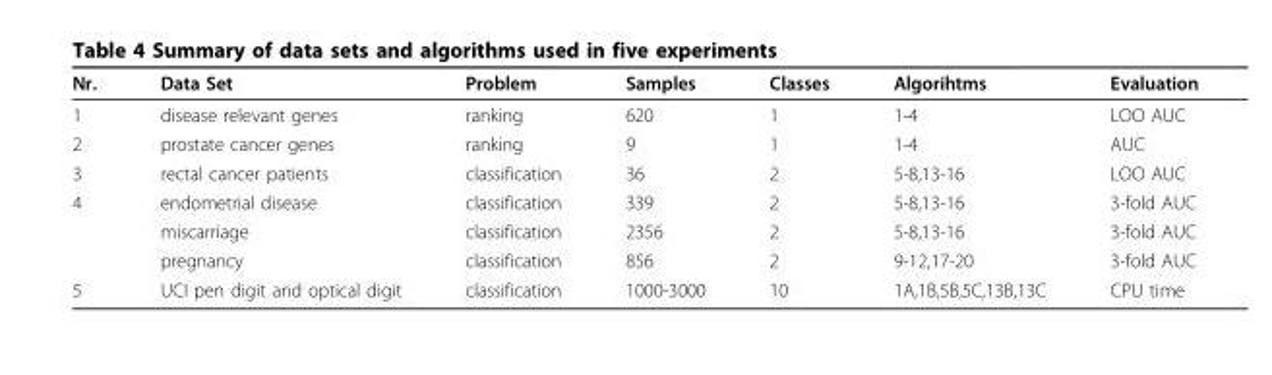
<table><thead><tr><td>Nr.</td><td>Data Set</td><td>Problem</td><td>Samples</td><td>Classes</td><td>Algorihtms</td><td>Evaluation</td></tr></thead><tbody><tr><td>1</td><td>disease relevant genes</td><td>ranking</td><td>620</td><td>1</td><td>1-4</td><td>LOO AUC</td></tr><tr><td>2</td><td>prostate cancer genes</td><td>ranking</td><td>9</td><td>1</td><td>1-4</td><td>AUC</td></tr><tr><td>3</td><td>rectal cancer patients</td><td>classification</td><td>36</td><td>2</td><td>5-8,13-16</td><td>LOO AUC</td></tr><tr><td rowspan="3">4</td><td>endometrial disease</td><td>classification</td><td>339</td><td>2</td><td>5-8,13-16</td><td>3-fold AUC</td></tr><tr><td>miscarriage</td><td>classification</td><td>2356</td><td>2</td><td>5-8,13-16</td><td>3-fold AUC</td></tr><tr><td>pregnancy</td><td>classification</td><td>856</td><td>2</td><td>9-12,17-20</td><td>3-fold AUC</td></tr><tr><td>5</td><td>UCI pen digit and optical digit</td><td>classification</td><td>1000-3000</td><td>10</td><td>1A,1B,5B,5C,13B,13C</td><td>CPU time</td></tr></tbody></table>